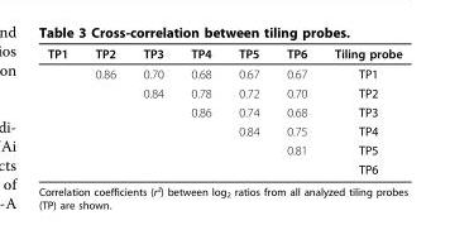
<table><thead><tr><td>TP1</td><td>TP2</td><td>TP3</td><td>TP4</td><td>TP5</td><td>TP6</td><td>Tiling probe</td></tr></thead><tbody><tr><td></td><td>0.86</td><td>0.70</td><td>0.68</td><td>0.67</td><td>0.67</td><td>TP1</td></tr><tr><td></td><td></td><td>0.84</td><td>0.78</td><td>0.72</td><td>0.70</td><td>TP2</td></tr><tr><td></td><td></td><td></td><td>0.86</td><td>0.74</td><td>0.68</td><td>TP3</td></tr><tr><td></td><td></td><td></td><td></td><td>0.84</td><td>0.75</td><td>TP4</td></tr><tr><td></td><td></td><td></td><td></td><td></td><td>0.81</td><td>TP5</td></tr><tr><td></td><td></td><td></td><td></td><td></td><td></td><td>TP6</td></tr></tbody></table>